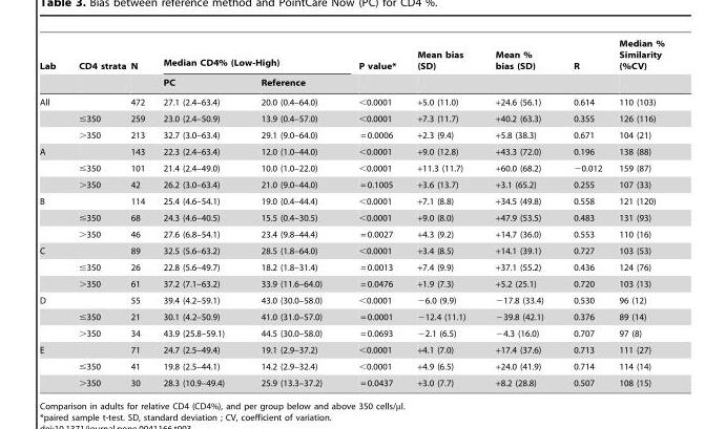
<table><thead><tr><td rowspan="2">Lab</td><td rowspan="2">CD4 strata</td><td rowspan="2">N</td><td colspan="2">Median CD4% (Low-High)</td><td rowspan="2">P value*</td><td rowspan="2">Mean bias (SD)</td><td rowspan="2">Mean % bias (SD)</td><td rowspan="2">R</td><td rowspan="2">Median % Similarity (%CV)</td></tr><tr><td>PC</td><td>Reference</td></tr></thead><tbody><tr><td rowspan="3">All</td><td></td><td>472</td><td>27.1 (2.4–63.4)</td><td>20.0 (0.4–64.0)</td><td>&lt;0.0001</td><td>+5.0 (11.0)</td><td>+24.6 (56.1)</td><td>0.614</td><td>110 (103)</td></tr><tr><td>≤350</td><td>259</td><td>23.0 (2.4–50.9)</td><td>13.9 (0.4–57.0)</td><td>&lt;0.0001</td><td>+7.3 (11.7)</td><td>+40.2 (63.3)</td><td>0.355</td><td>126 (116)</td></tr><tr><td>&gt;350</td><td>213</td><td>32.7 (3.0–63.4)</td><td>29.1 (9.0–64.0)</td><td>= 0.0006</td><td>+2.3 (9.4)</td><td>+5.8 (38.3)</td><td>0.671</td><td>104 (21)</td></tr><tr><td rowspan="3">A</td><td></td><td>143</td><td>22.3 (2.4–63.4)</td><td>12.0 (1.0–44.0)</td><td>&lt;0.0001</td><td>+9.0 (12.8)</td><td>+43.3 (72.0)</td><td>0.196</td><td>138 (88)</td></tr><tr><td>≤350</td><td>101</td><td>21.4 (2.4–49.0)</td><td>10.0 (1.0–22.0)</td><td>&lt;0.0001</td><td>+11.3 (11.7)</td><td>+60.0 (68.2)</td><td>−0.012</td><td>159 (87)</td></tr><tr><td>&gt;350</td><td>42</td><td>26.2 (3.0–63.4)</td><td>21.0 (9.0–44.0)</td><td>= 0.1005</td><td>+3.6 (13.7)</td><td>+3.1 (65.2)</td><td>0.255</td><td>107 (33)</td></tr><tr><td rowspan="3">B</td><td></td><td>114</td><td>25.4 (4.6–54.1)</td><td>19.0 (0.4–44.4)</td><td>&lt;0.0001</td><td>+7.1 (8.8)</td><td>+34.5 (49.8)</td><td>0.558</td><td>121 (120)</td></tr><tr><td>≤350</td><td>68</td><td>24.3 (4.6–40.5)</td><td>15.5 (0.4–30.5)</td><td>&lt;0.0001</td><td>+9.0 (8.0)</td><td>+47.9 (53.5)</td><td>0.483</td><td>131 (93)</td></tr><tr><td>&gt;350</td><td>46</td><td>27.6 (6.8–54.1)</td><td>23.4 (9.8–44.4)</td><td>= 0.0027</td><td>+4.3 (9.2)</td><td>+14.7 (36.0)</td><td>0.553</td><td>110 (16)</td></tr><tr><td rowspan="3">C</td><td></td><td>89</td><td>32.5 (5.6–63.2)</td><td>28.5 (1.8–64.0)</td><td>&lt;0.0001</td><td>+3.4 (8.5)</td><td>+14.1 (39.1)</td><td>0.727</td><td>103 (53)</td></tr><tr><td>≤350</td><td>26</td><td>22.8 (5.6–49.7)</td><td>18.2 (1.8–31.4)</td><td>= 0.0013</td><td>+7.4 (9.9)</td><td>+37.1 (55.2)</td><td>0.436</td><td>124 (76)</td></tr><tr><td>&gt;350</td><td>61</td><td>37.2 (7.1–63.2)</td><td>33.9 (11.6–64.0)</td><td>= 0.0476</td><td>+1.9 (7.3)</td><td>+5.2 (25.1)</td><td>0.720</td><td>103 (13)</td></tr><tr><td rowspan="3">D</td><td></td><td>55</td><td>39.4 (4.2–59.1)</td><td>43.0 (30.0–58.0)</td><td>&lt;0.0001</td><td>−6.0 (9.9)</td><td>−17.8 (33.4)</td><td>0.530</td><td>96 (12)</td></tr><tr><td>≤350</td><td>21</td><td>30.1 (4.2–50.9)</td><td>41.0 (31.0–57.0)</td><td>= 0.0001</td><td>−12.4 (11.1)</td><td>−39.8 (42.1)</td><td>0.376</td><td>89 (14)</td></tr><tr><td>&gt;350</td><td>34</td><td>43.9 (25.8–59.1)</td><td>44.5 (30.0–58.0)</td><td>= 0.0693</td><td>−2.1 (6.5)</td><td>−4.3 (16.0)</td><td>0.707</td><td>97 (8)</td></tr><tr><td rowspan="3">E</td><td></td><td>71</td><td>24.7 (2.5–49.4)</td><td>19.1 (2.9–37.2)</td><td>&lt;0.0001</td><td>+4.1 (7.0)</td><td>+17.4 (37.6)</td><td>0.713</td><td>111 (27)</td></tr><tr><td>≤350</td><td>41</td><td>19.8 (2.5–44.1)</td><td>14.2 (2.9–32.4)</td><td>&lt;0.0001</td><td>+4.9 (6.5)</td><td>+24.0 (41.9)</td><td>0.714</td><td>114 (14)</td></tr><tr><td>&gt;350</td><td>30</td><td>28.3 (10.9–49.4)</td><td>25.9 (13.3–37.2)</td><td>= 0.0437</td><td>+3.0 (7.7)</td><td>+8.2 (28.8)</td><td>0.507</td><td>108 (15)</td></tr></tbody></table>